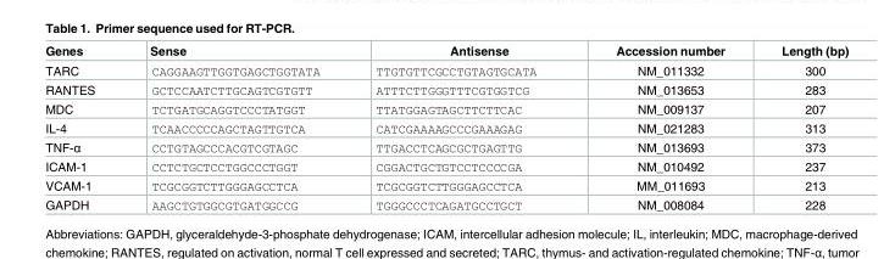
<table><thead><tr><td>Genes</td><td>Sense</td><td>Antisense</td><td>Accession number</td><td>Length (bp)</td></tr></thead><tbody><tr><td>TARC</td><td>CAGGAAGTTGGTGAGCTGGTATA</td><td>TTGTGTTCGCCTGTAGTGCATA</td><td>NM_011332</td><td>300</td></tr><tr><td>RANTES</td><td>GCTCCAATCTTGCAGTCGTGTT</td><td>ATTTCTTGGGTTTCGTGGTCG</td><td>NM_013653</td><td>283</td></tr><tr><td>MDC</td><td>TCTGATGCAGGTCCCTATGGT</td><td>TTATGGAGTAGCTTCTTCAC</td><td>NM_009137</td><td>207</td></tr><tr><td>IL-4</td><td>TCAACCCCCAGCTAGTTGTCA</td><td>CATCGAAAAGCCCGAAAGAG</td><td>NM_021283</td><td>313</td></tr><tr><td>TNF-α</td><td>CCTGTAGCCCACGTCGTAGC</td><td>TTGACCTCAGCGCTGAGTTG</td><td>NM_013693</td><td>373</td></tr><tr><td>ICAM-1</td><td>CCTCTGCTCCTGGCCCTGGT</td><td>CGGACTGCTGTCCTCCCCGA</td><td>NM_010492</td><td>237</td></tr><tr><td>VCAM-1</td><td>TCGCGGTCTTGGGAGCCTCA</td><td>TCGCGGTCTTGGGAGCCTCA</td><td>MM_011693</td><td>213</td></tr><tr><td>GAPDH</td><td>AAGCTGTGGCGTGATGGCCG</td><td>TGGGCCCTCAGATGCCTGCT</td><td>NM_008084</td><td>228</td></tr></tbody></table>